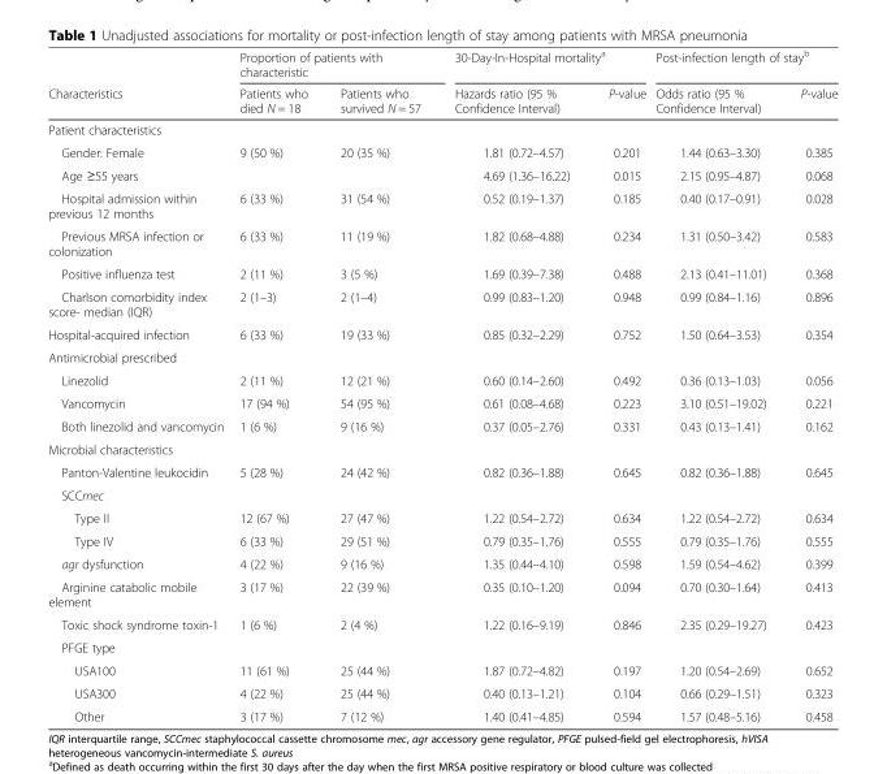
<table><thead><tr><td rowspan="2">Characteristics</td><td colspan="2">Proportion of patients with characteristic</td><td colspan="2">30-Day-In-Hospital mortality<sup>a</sup></td><td colspan="2">Post-infection length of stay<sup>b</sup></td></tr><tr><td>Patients who died N = 18</td><td>Patients who survived N = 57</td><td>Hazards ratio (95 % Confidence Interval)</td><td>P-value</td><td>Odds ratio (95 % Confidence Interval)</td><td>P-value</td></tr></thead><tbody><tr><td colspan="7">Patient characteristics</td></tr><tr><td>Gender: Female</td><td>9 (50 %)</td><td>20 (35 %)</td><td>1.81 (0.72–4.57)</td><td>0.201</td><td>1.44 (0.63–3.30)</td><td>0.385</td></tr><tr><td>Age ≥55 years</td><td></td><td></td><td>4.69 (1.36–16.22)</td><td>0.015</td><td>2.15 (0.95–4.87)</td><td>0.068</td></tr><tr><td>Hospital admission within previous 12 months</td><td>6 (33 %)</td><td>31 (54 %)</td><td>0.52 (0.19–1.37)</td><td>0.185</td><td>0.40 (0.17–0.91)</td><td>0.028</td></tr><tr><td>Previous MRSA infection or colonization</td><td>6 (33 %)</td><td>11 (19 %)</td><td>1.82 (0.68–4.88)</td><td>0.234</td><td>1.31 (0.50–3.42)</td><td>0.583</td></tr><tr><td>Positive influenza test</td><td>2 (11 %)</td><td>3 (5 %)</td><td>1.69 (0.39–7.38)</td><td>0.488</td><td>2.13 (0.41–11.01)</td><td>0.368</td></tr><tr><td>Charlson comorbidity index score- median (IQR)</td><td>2 (1–3)</td><td>2 (1–4)</td><td>0.99 (0.83–1.20)</td><td>0.948</td><td>0.99 (0.84–1.16)</td><td>0.896</td></tr><tr><td>Hospital-acquired infection</td><td>6 (33 %)</td><td>19 (33 %)</td><td>0.85 (0.32–2.29)</td><td>0.752</td><td>1.50 (0.64–3.53)</td><td>0.354</td></tr><tr><td colspan="7">Antimicrobial prescribed</td></tr><tr><td>Linezolid</td><td>2 (11 %)</td><td>12 (21 %)</td><td>0.60 (0.14–2.60)</td><td>0.492</td><td>0.36 (0.13–1.03)</td><td>0.056</td></tr><tr><td>Vancomycin</td><td>17 (94 %)</td><td>54 (95 %)</td><td>0.61 (0.08–4.68)</td><td>0.223</td><td>3.10 (0.51–19.02)</td><td>0.221</td></tr><tr><td>Both linezolid and vancomycin</td><td>1 (6 %)</td><td>9 (16 %)</td><td>0.37 (0.05–2.76)</td><td>0.331</td><td>0.43 (0.13–1.41)</td><td>0.162</td></tr><tr><td colspan="7">Microbial characteristics</td></tr><tr><td>Panton-Valentine leukocidin</td><td>5 (28 %)</td><td>24 (42 %)</td><td>0.82 (0.36–1.88)</td><td>0.645</td><td>0.82 (0.36–1.88)</td><td>0.645</td></tr><tr><td colspan="7">SCCmec</td></tr><tr><td>Type II</td><td>12 (67 %)</td><td>27 (47 %)</td><td>1.22 (0.54–2.72)</td><td>0.634</td><td>1.22 (0.54–2.72)</td><td>0.634</td></tr><tr><td>Type IV</td><td>6 (33 %)</td><td>29 (51 %)</td><td>0.79 (0.35–1.76)</td><td>0.555</td><td>0.79 (0.35–1.76)</td><td>0.555</td></tr><tr><td>agr dysfunction</td><td>4 (22 %)</td><td>9 (16 %)</td><td>1.35 (0.44–4.10)</td><td>0.598</td><td>1.59 (0.54–4.62)</td><td>0.399</td></tr><tr><td>Arginine catabolic mobile element</td><td>3 (17 %)</td><td>22 (39 %)</td><td>0.35 (0.10–1.20)</td><td>0.094</td><td>0.70 (0.30–1.64)</td><td>0.413</td></tr><tr><td>Toxic shock syndrome toxin-1</td><td>1 (6 %)</td><td>2 (4 %)</td><td>1.22 (0.16–9.19)</td><td>0.846</td><td>2.35 (0.29–19.27)</td><td>0.423</td></tr><tr><td colspan="7">PFGE type</td></tr><tr><td>USA100</td><td>11 (61 %)</td><td>25 (44 %)</td><td>1.87 (0.72–4.82)</td><td>0.197</td><td>1.20 (0.54–2.69)</td><td>0.652</td></tr><tr><td>USA300</td><td>4 (22 %)</td><td>25 (44 %)</td><td>0.40 (0.13–1.21)</td><td>0.104</td><td>0.66 (0.29–1.51)</td><td>0.323</td></tr><tr><td>Other</td><td>3 (17 %)</td><td>7 (12 %)</td><td>1.40 (0.41–4.85)</td><td>0.594</td><td>1.57 (0.48–5.16)</td><td>0.458</td></tr></tbody></table>